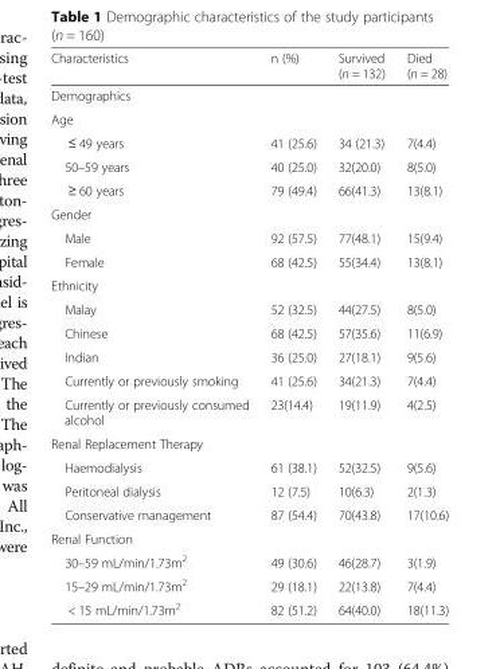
<table><thead><tr><td>Characteristics</td><td>n (%)</td><td>Survived (n = 132)</td><td>Died (n = 28)</td></tr></thead><tbody><tr><td colspan="4">Demographics</td></tr><tr><td colspan="4">Age</td></tr><tr><td>≤ 49 years</td><td>41 (25.6)</td><td>34 (21.3)</td><td>7(4.4)</td></tr><tr><td>50–59 years</td><td>40 (25.0)</td><td>32(20.0)</td><td>8(5.0)</td></tr><tr><td>≥ 60 years</td><td>79 (49.4)</td><td>66(41.3)</td><td>13(8.1)</td></tr><tr><td colspan="4">Gender</td></tr><tr><td>Male</td><td>92 (57.5)</td><td>77(48.1)</td><td>15(9.4)</td></tr><tr><td>Female</td><td>68 (42.5)</td><td>55(34.4)</td><td>13(8.1)</td></tr><tr><td colspan="4">Ethnicity</td></tr><tr><td>Malay</td><td>52 (32.5)</td><td>44(27.5)</td><td>8(5.0)</td></tr><tr><td>Chinese</td><td>68 (42.5)</td><td>57(35.6)</td><td>11(6.9)</td></tr><tr><td>Indian</td><td>36 (25.0)</td><td>27(18.1)</td><td>9(5.6)</td></tr><tr><td>Currently or previously smoking</td><td>41 (25.6)</td><td>34(21.3)</td><td>7(4.4)</td></tr><tr><td>Currently or previously consumed alcohol</td><td>23(14.4)</td><td>19(11.9)</td><td>4(2.5)</td></tr><tr><td colspan="4">Renal Replacement Therapy</td></tr><tr><td>Haemodialysis</td><td>61 (38.1)</td><td>52(32.5)</td><td>9(5.6)</td></tr><tr><td>Peritoneal dialysis</td><td>12 (7.5)</td><td>10(6.3)</td><td>2(1.3)</td></tr><tr><td>Conservative management</td><td>87 (54.4)</td><td>70(43.8)</td><td>17(10.6)</td></tr><tr><td colspan="4">Renal Function</td></tr><tr><td>30–59 mL/min/1.73m<sup>2</sup></td><td>49 (30.6)</td><td>46(28.7)</td><td>3(1.9)</td></tr><tr><td>15–29 mL/min/1.73m<sup>2</sup></td><td>29 (18.1)</td><td>22(13.8)</td><td>7(4.4)</td></tr><tr><td>&lt; 15 mL/min/1.73m<sup>2</sup></td><td>82 (51.2)</td><td>64(40.0)</td><td>18(11.3)</td></tr></tbody></table>